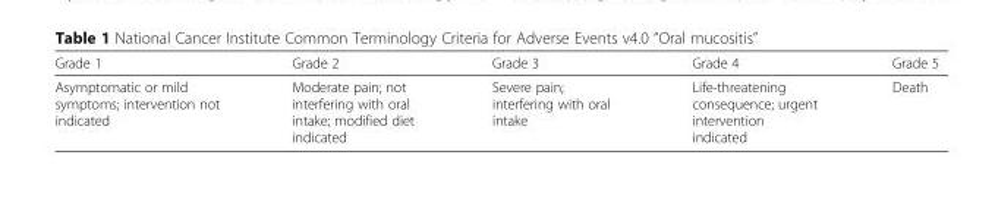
<table><thead><tr><td>Grade 1</td><td>Grade 2</td><td>Grade 3</td><td>Grade 4</td><td>Grade 5</td></tr></thead><tbody><tr><td>Asymptomatic or mild symptoms; intervention not indicated</td><td>Moderate pain; not interfering with oral intake; modified diet indicated</td><td>Severe pain; interfering with oral intake</td><td>Life-threatening consequence; urgent intervention indicated</td><td>Death</td></tr></tbody></table>